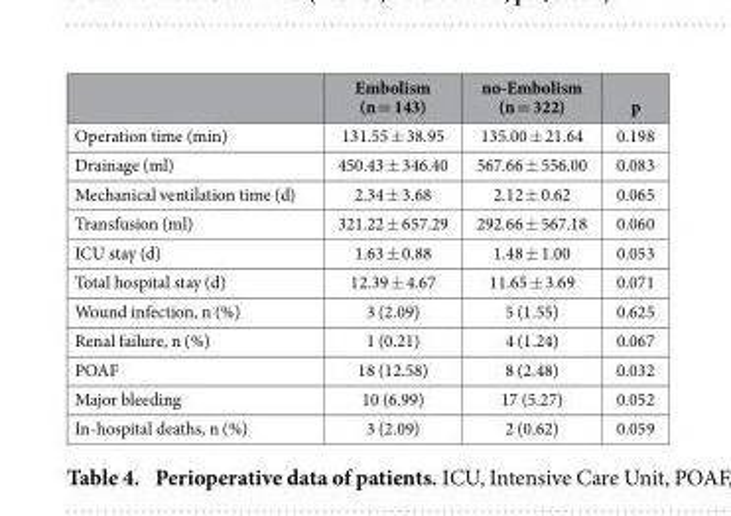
<table><thead><tr><td></td><td>Embolism (n = 143)</td><td>no-Embolism (n = 322)</td><td>p</td></tr></thead><tbody><tr><td>Operation time (min)</td><td>131.55 ± 38.95</td><td>135.00 ± 21.64</td><td>0.198</td></tr><tr><td>Drainage (ml)</td><td>450.43 ± 346.40</td><td>567.66 ± 556.00</td><td>0.083</td></tr><tr><td>Mechanical ventilation time (d)</td><td>2.34 ± 3.68</td><td>2.12 ± 0.62</td><td>0.065</td></tr><tr><td>Transfusion (ml)</td><td>321.22 ± 657.29</td><td>292.66 ± 567.18</td><td>0.060</td></tr><tr><td>ICU stay (d)</td><td>1.63 ± 0.88</td><td>1.48 ± 1.00</td><td>0.053</td></tr><tr><td>Total hospital stay (d)</td><td>12.39 ± 4.67</td><td>11.65 ± 3.69</td><td>0.071</td></tr><tr><td>Wound infection, n (%)</td><td>3 (2.09)</td><td>5 (1.55)</td><td>0.625</td></tr><tr><td>Renal failure, n (%)</td><td>1 (0.21)</td><td>4 (1.24)</td><td>0.067</td></tr><tr><td>POAF</td><td>18 (12.58)</td><td>8 (2.48)</td><td>0.032</td></tr><tr><td>Major bleeding</td><td>10 (6.99)</td><td>17 (5.27)</td><td>0.052</td></tr><tr><td>In-hospital deaths, n (%)</td><td>3 (2.09)</td><td>2 (0.62)</td><td>0.059</td></tr></tbody></table>